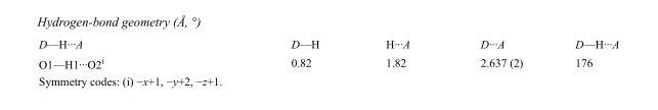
<table><tbody><tr><td>D—H···A</td><td>D—H</td><td>H···A</td><td>D···A</td><td>D—H···A</td></tr><tr><td>O1—H1···O2<sup>i</sup></td><td>0.82</td><td>1.82</td><td>2.637 (2)</td><td>176</td></tr></tbody></table>